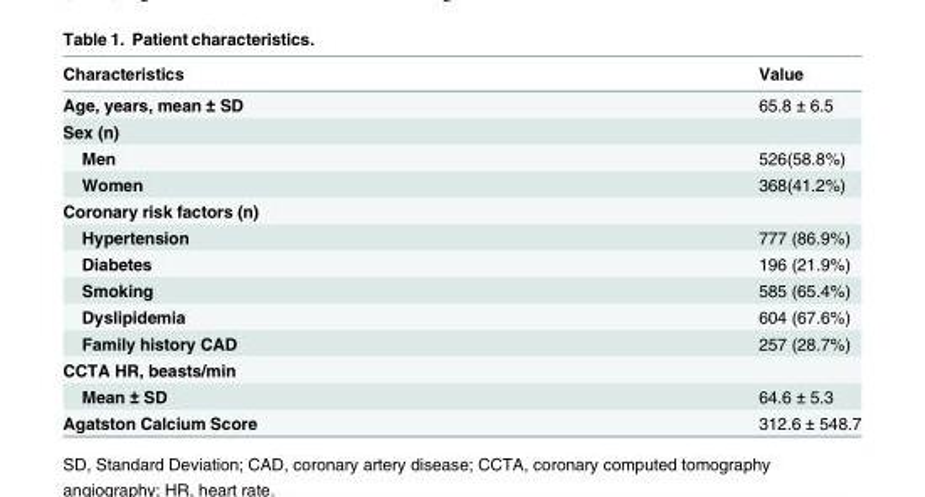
<table><thead><tr><td>Characteristics</td><td>Value</td></tr></thead><tbody><tr><td>Age, years, mean ± SD</td><td>65.8 ± 6.5</td></tr><tr><td colspan="2">Sex (n)</td></tr><tr><td>Men</td><td>526(58.8%)</td></tr><tr><td>Women</td><td>368(41.2%)</td></tr><tr><td colspan="2">Coronary risk factors (n)</td></tr><tr><td>Hypertension</td><td>777 (86.9%)</td></tr><tr><td>Diabetes</td><td>196 (21.9%)</td></tr><tr><td>Smoking</td><td>585 (65.4%)</td></tr><tr><td>Dyslipidemia</td><td>604 (67.6%)</td></tr><tr><td>Family history CAD</td><td>257 (28.7%)</td></tr><tr><td colspan="2">CCTA HR, beasts/min</td></tr><tr><td>Mean ± SD</td><td>64.6 ± 5.3</td></tr><tr><td>Agatston Calcium Score</td><td>312.6 ± 548.7</td></tr></tbody></table>